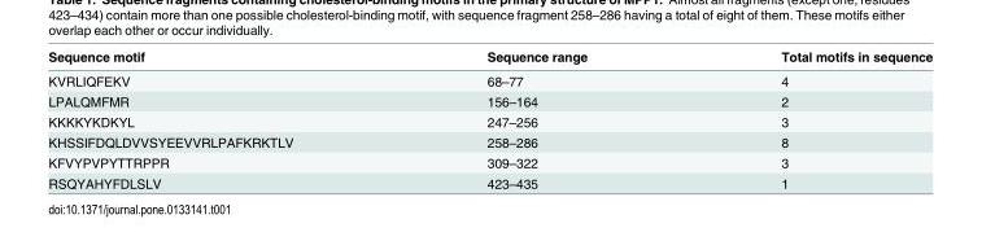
<table><thead><tr><td>Sequence motif</td><td>Sequence range</td><td>Total motifs in sequence</td></tr></thead><tbody><tr><td>KVRLIQFEKV</td><td>68–77</td><td>4</td></tr><tr><td>LPALQMFMR</td><td>156–164</td><td>2</td></tr><tr><td>KKKKYKDKYL</td><td>247–256</td><td>3</td></tr><tr><td>KHSSIFDQLDVVSYEEVVRLPAFKRKTLV</td><td>258–286</td><td>8</td></tr><tr><td>KFVYPVPYTTRPPR</td><td>309–322</td><td>3</td></tr><tr><td>RSQYAHYFDLSLV</td><td>423–435</td><td>1</td></tr></tbody></table>